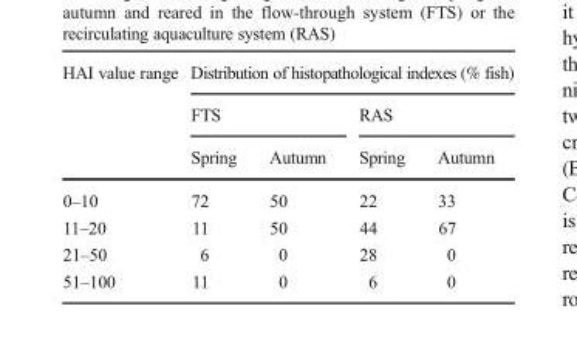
<table><thead><tr><td rowspan="3">HAI value range</td><td colspan="4">Distribution of histopathological indexes (% fish)</td></tr><tr><td colspan="2">FTS</td><td colspan="2">RAS</td></tr><tr><td>Spring</td><td>Autumn</td><td>Spring</td><td>Autumn</td></tr></thead><tbody><tr><td>0–10</td><td>72</td><td>50</td><td>22</td><td>33</td></tr><tr><td>11–20</td><td>11</td><td>50</td><td>44</td><td>67</td></tr><tr><td>21–50</td><td>6</td><td>0</td><td>28</td><td>0</td></tr><tr><td>51–100</td><td>11</td><td>0</td><td>6</td><td>0</td></tr></tbody></table>